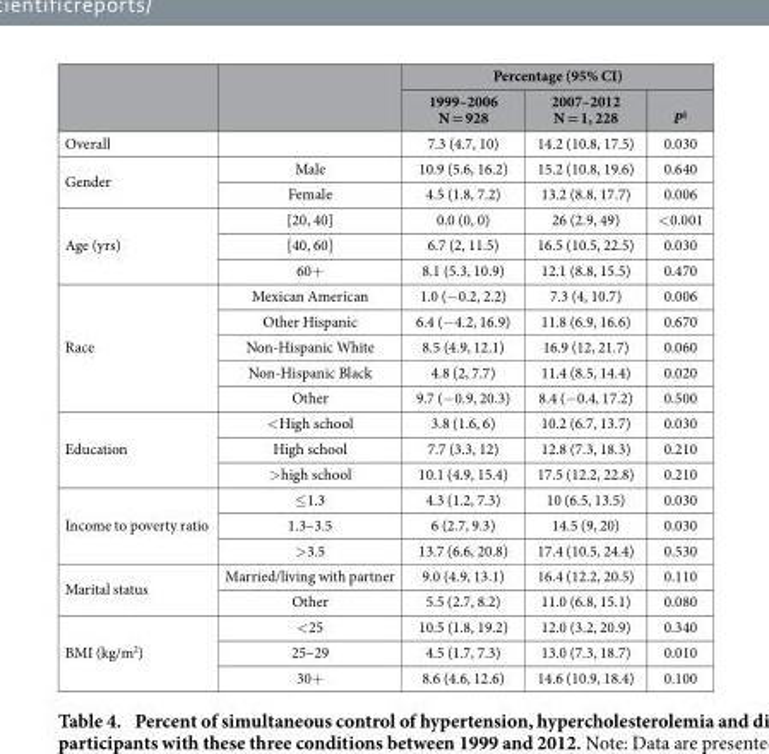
<table><thead><tr><td rowspan="2"></td><td rowspan="2"></td><td colspan="3">Percentage (95% CI)</td></tr><tr><td>1999–2006 N = 928</td><td>2007–2012 N = 1, 228</td><td>P<sup>1</sup></td></tr></thead><tbody><tr><td>Overall</td><td></td><td>7.3 (4.7, 10)</td><td>14.2 (10.8, 17.5)</td><td>0.030</td></tr><tr><td rowspan="2">Gender</td><td>Male</td><td>10.9 (5.6, 16.2)</td><td>15.2 (10.8, 19.6)</td><td>0.640</td></tr><tr><td>Female</td><td>4.5 (1.8, 7.2)</td><td>13.2 (8.8, 17.7)</td><td>0.006</td></tr><tr><td rowspan="3">Age (yrs)</td><td>[20, 40]</td><td>0.0 (0, 0)</td><td>26 (2.9, 49)</td><td>&lt; 0.001</td></tr><tr><td>[40, 60]</td><td>6.7 (2, 11.5)</td><td>16.5 (10.5, 22.5)</td><td>0.030</td></tr><tr><td>60+</td><td>8.1 (5.3, 10.9)</td><td>12.1 (8.8, 15.5)</td><td>0.470</td></tr><tr><td rowspan="5">Race</td><td>Mexican American</td><td>1.0 (− 0.2, 2.2)</td><td>7.3 (4, 10.7)</td><td>0.006</td></tr><tr><td>Other Hispanic</td><td>6.4 (− 4.2, 16.9)</td><td>11.8 (6.9, 16.6)</td><td>0.670</td></tr><tr><td>Non-Hispanic White</td><td>8.5 (4.9, 12.1)</td><td>16.9 (12, 21.7)</td><td>0.060</td></tr><tr><td>Non-Hispanic Black</td><td>4.8 (2, 7.7)</td><td>11.4 (8.5, 14.4)</td><td>0.020</td></tr><tr><td>Other</td><td>9.7 (− 0.9, 20.3)</td><td>8.4 (− 0.4, 17.2)</td><td>0.500</td></tr><tr><td rowspan="3">Education</td><td>&lt; High school</td><td>3.8 (1.6, 6)</td><td>10.2 (6.7, 13.7)</td><td>0.030</td></tr><tr><td>High school</td><td>7.7 (3.3, 12)</td><td>12.8 (7.3, 18.3)</td><td>0.210</td></tr><tr><td>&gt; high school</td><td>10.1 (4.9, 15.4)</td><td>17.5 (12.2, 22.8)</td><td>0.210</td></tr><tr><td rowspan="3">Income to poverty ratio</td><td>≤ 1.3</td><td>4.3 (1.2, 7.3)</td><td>10 (6.5, 13.5)</td><td>0.030</td></tr><tr><td>1.3–3.5</td><td>6 (2.7, 9.3)</td><td>14.5 (9, 20)</td><td>0.030</td></tr><tr><td>&gt; 3.5</td><td>13.7 (6.6, 20.8)</td><td>17.4 (10.5, 24.4)</td><td>0.530</td></tr><tr><td rowspan="2">Marital status</td><td>Married/living with partner</td><td>9.0 (4.9, 13.1)</td><td>16.4 (12.2, 20.5)</td><td>0.110</td></tr><tr><td>Other</td><td>5.5 (2.7, 8.2)</td><td>11.0 (6.8, 15.1)</td><td>0.080</td></tr><tr><td rowspan="3">BMI (kg/m<sup>2</sup>)</td><td>&lt; 25</td><td>10.5 (1.8, 19.2)</td><td>12.0 (3.2, 20.9)</td><td>0.340</td></tr><tr><td>25–29</td><td>4.5 (1.7, 7.3)</td><td>13.0 (7.3, 18.7)</td><td>0.010</td></tr><tr><td>30+</td><td>8.6 (4.6, 12.6)</td><td>14.6 (10.9, 18.4)</td><td>0.100</td></tr></tbody></table>